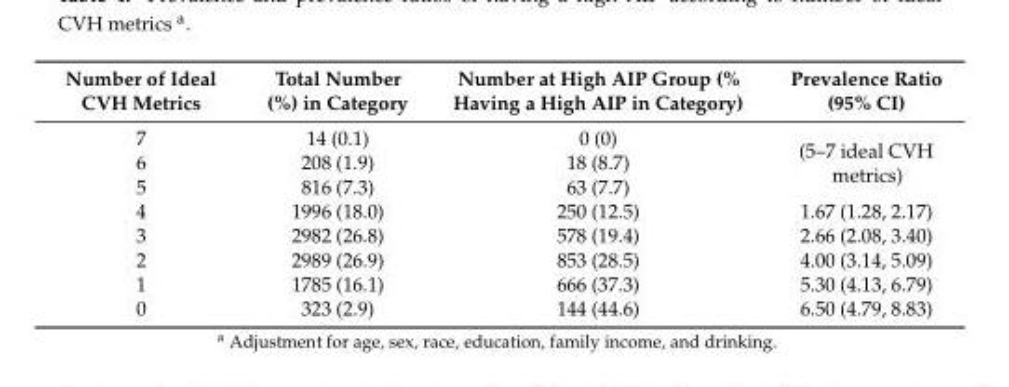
<table><thead><tr><td>Number of Ideal CVH Metrics</td><td>Total Number (%) in Category</td><td>Number at High AIP Group (% Having a High AIP in Category)</td><td>Prevalence Ratio (95% CI)</td></tr></thead><tbody><tr><td>7</td><td>14 (0.1)</td><td>0 (0)</td><td rowspan="3">(5–7 ideal CVH metrics)</td></tr><tr><td>6</td><td>208 (1.9)</td><td>18 (8.7)</td></tr><tr><td>5</td><td>816 (7.3)</td><td>63 (7.7)</td></tr><tr><td>4</td><td>1996 (18.0)</td><td>250 (12.5)</td><td>1.67 (1.28, 2.17)</td></tr><tr><td>3</td><td>2982 (26.8)</td><td>578 (19.4)</td><td>2.66 (2.08, 3.40)</td></tr><tr><td>2</td><td>2989 (26.9)</td><td>853 (28.5)</td><td>4.00 (3.14, 5.09)</td></tr><tr><td>1</td><td>1785 (16.1)</td><td>666 (37.3)</td><td>5.30 (4.13, 6.79)</td></tr><tr><td>0</td><td>323 (2.9)</td><td>144 (44.6)</td><td>6.50 (4.79, 8.83)</td></tr></tbody></table>